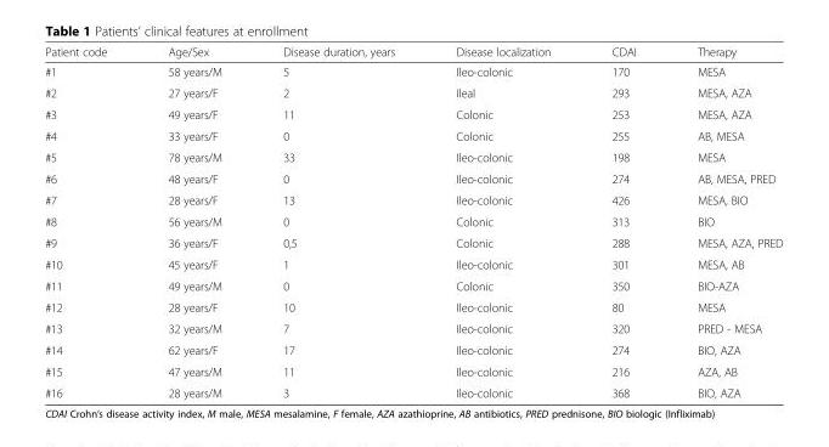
<table><thead><tr><td>Patient code</td><td>Age/Sex</td><td>Disease duration, years</td><td>Disease localization</td><td>CDAI</td><td>Therapy</td></tr></thead><tbody><tr><td>#1</td><td>58 years/M</td><td>5</td><td>Ileo-colonic</td><td>170</td><td>MESA</td></tr><tr><td>#2</td><td>27 years/F</td><td>2</td><td>Ileal</td><td>293</td><td>MESA, AZA</td></tr><tr><td>#3</td><td>49 years/F</td><td>11</td><td>Colonic</td><td>253</td><td>MESA, AZA</td></tr><tr><td>#4</td><td>33 years/F</td><td>0</td><td>Colonic</td><td>255</td><td>AB, MESA</td></tr><tr><td>#5</td><td>78 years/M</td><td>33</td><td>Ileo-colonic</td><td>198</td><td>MESA</td></tr><tr><td>#6</td><td>48 years/F</td><td>0</td><td>Ileo-colonic</td><td>274</td><td>AB, MESA, PRED</td></tr><tr><td>#7</td><td>28 years/F</td><td>13</td><td>Ileo-colonic</td><td>426</td><td>MESA, BIO</td></tr><tr><td>#8</td><td>56 years/M</td><td>0</td><td>Colonic</td><td>313</td><td>BIO</td></tr><tr><td>#9</td><td>36 years/F</td><td>0,5</td><td>Colonic</td><td>288</td><td>MESA, AZA, PRED</td></tr><tr><td>#10</td><td>45 years/F</td><td>1</td><td>Ileo-colonic</td><td>301</td><td>MESA, AB</td></tr><tr><td>#11</td><td>49 years/M</td><td>0</td><td>Colonic</td><td>350</td><td>BIO-AZA</td></tr><tr><td>#12</td><td>28 years/F</td><td>10</td><td>Ileo-colonic</td><td>80</td><td>MESA</td></tr><tr><td>#13</td><td>32 years/M</td><td>7</td><td>Ileo-colonic</td><td>320</td><td>PRED - MESA</td></tr><tr><td>#14</td><td>62 years/F</td><td>17</td><td>Ileo-colonic</td><td>274</td><td>BIO, AZA</td></tr><tr><td>#15</td><td>47 years/M</td><td>11</td><td>Ileo-colonic</td><td>216</td><td>AZA, AB</td></tr><tr><td>#16</td><td>28 years/M</td><td>3</td><td>Ileo-colonic</td><td>368</td><td>BIO, AZA</td></tr></tbody></table>